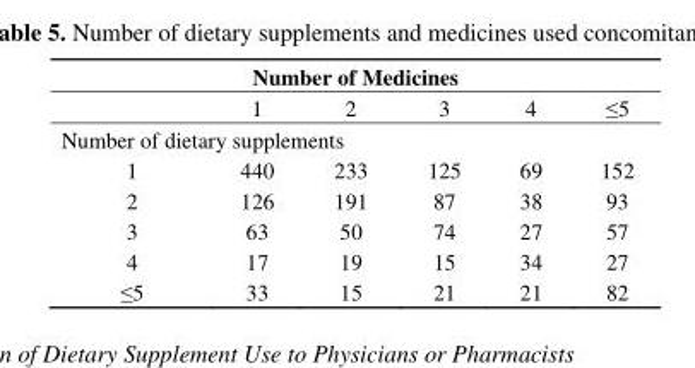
<table><thead><tr><td colspan="6">Number of Medicines</td></tr><tr><td></td><td>1</td><td>2</td><td>3</td><td>4</td><td>≤5</td></tr></thead><tbody><tr><td colspan="6">Number of dietary supplements</td></tr><tr><td>1</td><td>440</td><td>233</td><td>125</td><td>69</td><td>152</td></tr><tr><td>2</td><td>126</td><td>191</td><td>87</td><td>38</td><td>93</td></tr><tr><td>3</td><td>63</td><td>50</td><td>74</td><td>27</td><td>57</td></tr><tr><td>4</td><td>17</td><td>19</td><td>15</td><td>34</td><td>27</td></tr><tr><td>≤5</td><td>33</td><td>15</td><td>21</td><td>21</td><td>82</td></tr></tbody></table>